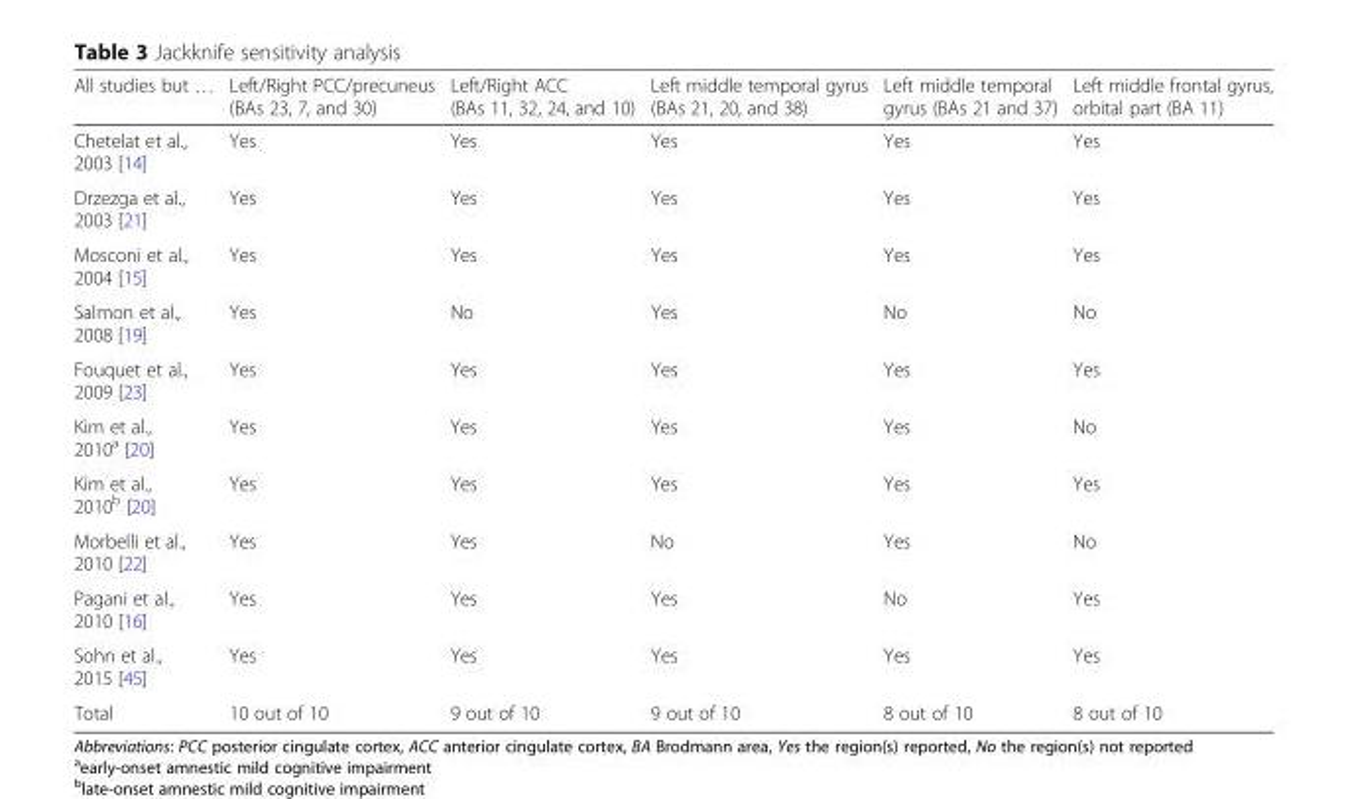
<table><thead><tr><td>All studies but …</td><td>Left/Right PCC/precuneus (BAs 23, 7, and 30)</td><td>Left/Right ACC (BAs 11, 32, 24, and 10)</td><td>Left middle temporal gyrus (BAs 21, 20, and 38)</td><td>Left middle temporal gyrus (BAs 21 and 37)</td><td>Left middle frontal gyrus, orbital part (BA 11)</td></tr></thead><tbody><tr><td>Chetelat et al., 2003 [14]</td><td>Yes</td><td>Yes</td><td>Yes</td><td>Yes</td><td>Yes</td></tr><tr><td>Drzezga et al., 2003 [21]</td><td>Yes</td><td>Yes</td><td>Yes</td><td>Yes</td><td>Yes</td></tr><tr><td>Mosconi et al., 2004 [15]</td><td>Yes</td><td>Yes</td><td>Yes</td><td>Yes</td><td>Yes</td></tr><tr><td>Salmon et al., 2008 [19]</td><td>Yes</td><td>No</td><td>Yes</td><td>No</td><td>No</td></tr><tr><td>Fouquet et al., 2009 [23]</td><td>Yes</td><td>Yes</td><td>Yes</td><td>Yes</td><td>Yes</td></tr><tr><td>Kim et al., 2010<sup>a</sup> [20]</td><td>Yes</td><td>Yes</td><td>Yes</td><td>Yes</td><td>No</td></tr><tr><td>Kim et al., 2010<sup>b</sup> [20]</td><td>Yes</td><td>Yes</td><td>Yes</td><td>Yes</td><td>Yes</td></tr><tr><td>Morbelli et al., 2010 [22]</td><td>Yes</td><td>Yes</td><td>No</td><td>Yes</td><td>No</td></tr><tr><td>Pagani et al., 2010 [16]</td><td>Yes</td><td>Yes</td><td>Yes</td><td>No</td><td>Yes</td></tr><tr><td>Sohn et al., 2015 [45]</td><td>Yes</td><td>Yes</td><td>Yes</td><td>Yes</td><td>Yes</td></tr><tr><td>Total</td><td>10 out of 10</td><td>9 out of 10</td><td>9 out of 10</td><td>8 out of 10</td><td>8 out of 10</td></tr></tbody></table>